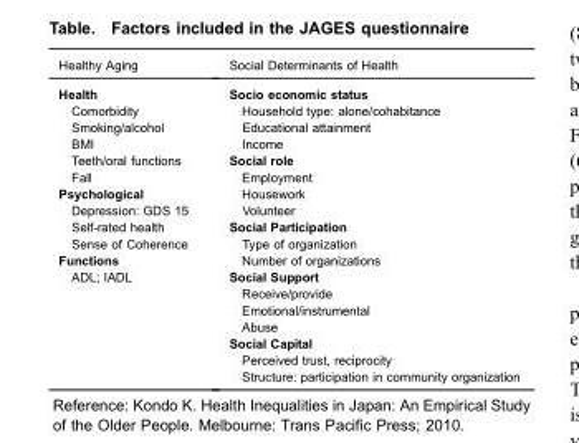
<table><thead><tr><td>Healthy Aging</td><td>Social Determinants of Health</td></tr></thead><tbody><tr><td>Health</td><td>Socio economic status</td></tr><tr><td>Comorbidity</td><td>Household type: alone/cohabitance</td></tr><tr><td>Smoking/alcohol</td><td>Educational attainment</td></tr><tr><td>BMI</td><td>Income</td></tr><tr><td>Teeth/oral functions</td><td>Social role</td></tr><tr><td>Fall</td><td>Employment</td></tr><tr><td>Psychological</td><td>Housework</td></tr><tr><td>Depression: GDS 15</td><td>Volunteer</td></tr><tr><td>Self-rated health</td><td>Social Participation</td></tr><tr><td>Sense of Coherence</td><td>Type of organization</td></tr><tr><td>Functions</td><td>Number of organizations</td></tr><tr><td rowspan="7">ADL; IADL</td><td>Social Support</td></tr><tr><td>Receive/provide</td></tr><tr><td>Emotional/instrumental</td></tr><tr><td>Abuse</td></tr><tr><td>Social Capital</td></tr><tr><td>Perceived trust, reciprocity</td></tr><tr><td>Structure: participation in community organization</td></tr></tbody></table>